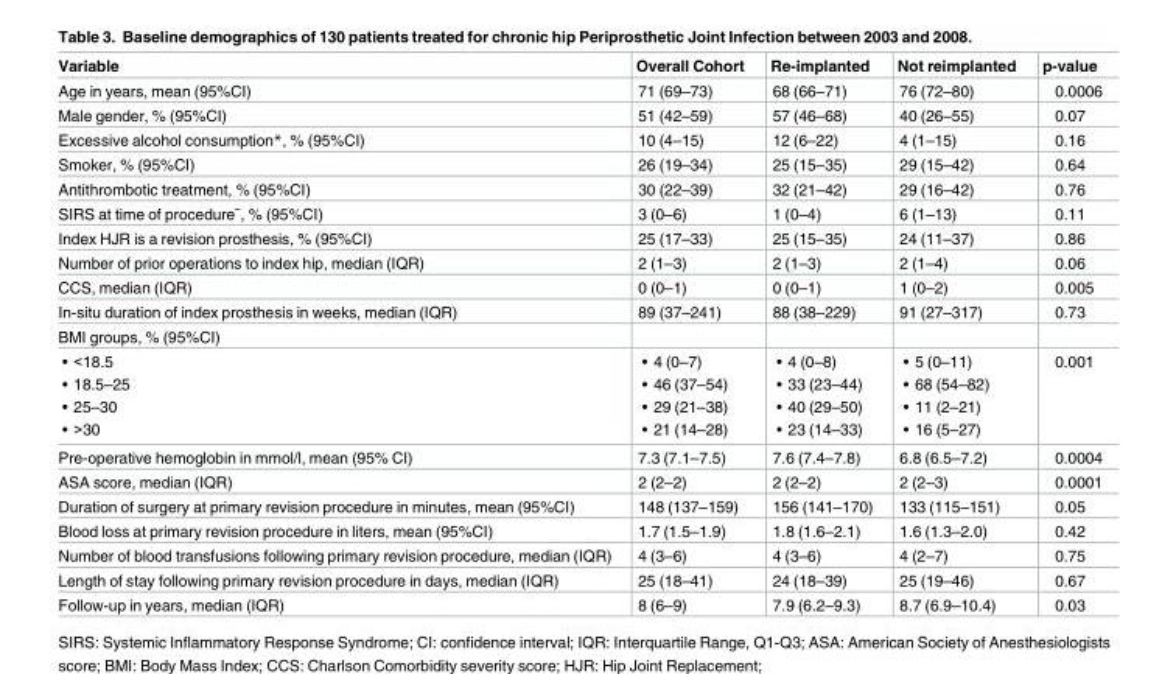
<table><thead><tr><td>Variable</td><td>Overall Cohort</td><td>Re-implanted</td><td>Not reimplanted</td><td>p-value</td></tr></thead><tbody><tr><td>Age in years, mean (95%CI)</td><td>71 (69–73)</td><td>68 (66–71)</td><td>76 (72–80)</td><td>0.0006</td></tr><tr><td>Male gender, % (95%CI)</td><td>51 (42–59)</td><td>57 (46–68)</td><td>40 (26–55)</td><td>0.07</td></tr><tr><td>Excessive alcohol consumption*, % (95%CI)</td><td>10 (4–15)</td><td>12 (6–22)</td><td>4 (1–15)</td><td>0.16</td></tr><tr><td>Smoker, % (95%CI)</td><td>26 (19–34)</td><td>25 (15–35)</td><td>29 (15–42)</td><td>0.64</td></tr><tr><td>Antithrombotic treatment, % (95%CI)</td><td>30 (22–39)</td><td>32 (21–42)</td><td>29 (16–42)</td><td>0.76</td></tr><tr><td>SIRS at time of procedure˜, % (95%CI)</td><td>3 (0–6)</td><td>1 (0–4)</td><td>6 (1–13)</td><td>0.11</td></tr><tr><td>Index HJR is a revision prosthesis, % (95%CI)</td><td>25 (17–33)</td><td>25 (15–35)</td><td>24 (11–37)</td><td>0.86</td></tr><tr><td>Number of prior operations to index hip, median (IQR)</td><td>2 (1–3)</td><td>2 (1–3)</td><td>2 (1–4)</td><td>0.06</td></tr><tr><td>CCS, median (IQR)</td><td>0 (0–1)</td><td>0 (0–1)</td><td>1 (0–2)</td><td>0.005</td></tr><tr><td>In-situ duration of index prosthesis in weeks, median (IQR)</td><td>89 (37–241)</td><td>88 (38–229)</td><td>91 (27–317)</td><td>0.73</td></tr><tr><td colspan="5">BMI groups, % (95%CI)</td></tr><tr><td>• &lt;18.5 • 18.5–25 • 25–30 • &gt;30</td><td>• 4 (0–7) • 46 (37–54) • 29 (21–38) • 21 (14–28)</td><td>• 4 (0–8) • 33 (23–44) • 40 (29–50) • 23 (14–33)</td><td>• 5 (0–11) • 68 (54–82) • 11 (2–21) • 16 (5–27)</td><td>0.001</td></tr><tr><td>Pre-operative hemoglobin in mmol/l, mean (95% CI)</td><td>7.3 (7.1–7.5)</td><td>7.6 (7.4–7.8)</td><td>6.8 (6.5–7.2)</td><td>0.0004</td></tr><tr><td>ASA score, median (IQR)</td><td>2 (2–2)</td><td>2 (2–2)</td><td>2 (2–3)</td><td>0.0001</td></tr><tr><td>Duration of surgery at primary revision procedure in minutes, mean (95%CI)</td><td>148 (137–159)</td><td>156 (141–170)</td><td>133 (115–151)</td><td>0.05</td></tr><tr><td>Blood loss at primary revision procedure in liters, mean (95%CI)</td><td>1.7 (1.5–1.9)</td><td>1.8 (1.6–2.1)</td><td>1.6 (1.3–2.0)</td><td>0.42</td></tr><tr><td>Number of blood transfusions following primary revision procedure, median (IQR)</td><td>4 (3–6)</td><td>4 (3–6)</td><td>4 (2–7)</td><td>0.75</td></tr><tr><td>Length of stay following primary revision procedure in days, median (IQR)</td><td>25 (18–41)</td><td>24 (18–39)</td><td>25 (19–46)</td><td>0.67</td></tr><tr><td>Follow-up in years, median (IQR)</td><td>8 (6–9)</td><td>7.9 (6.2–9.3)</td><td>8.7 (6.9–10.4)</td><td>0.03</td></tr></tbody></table>